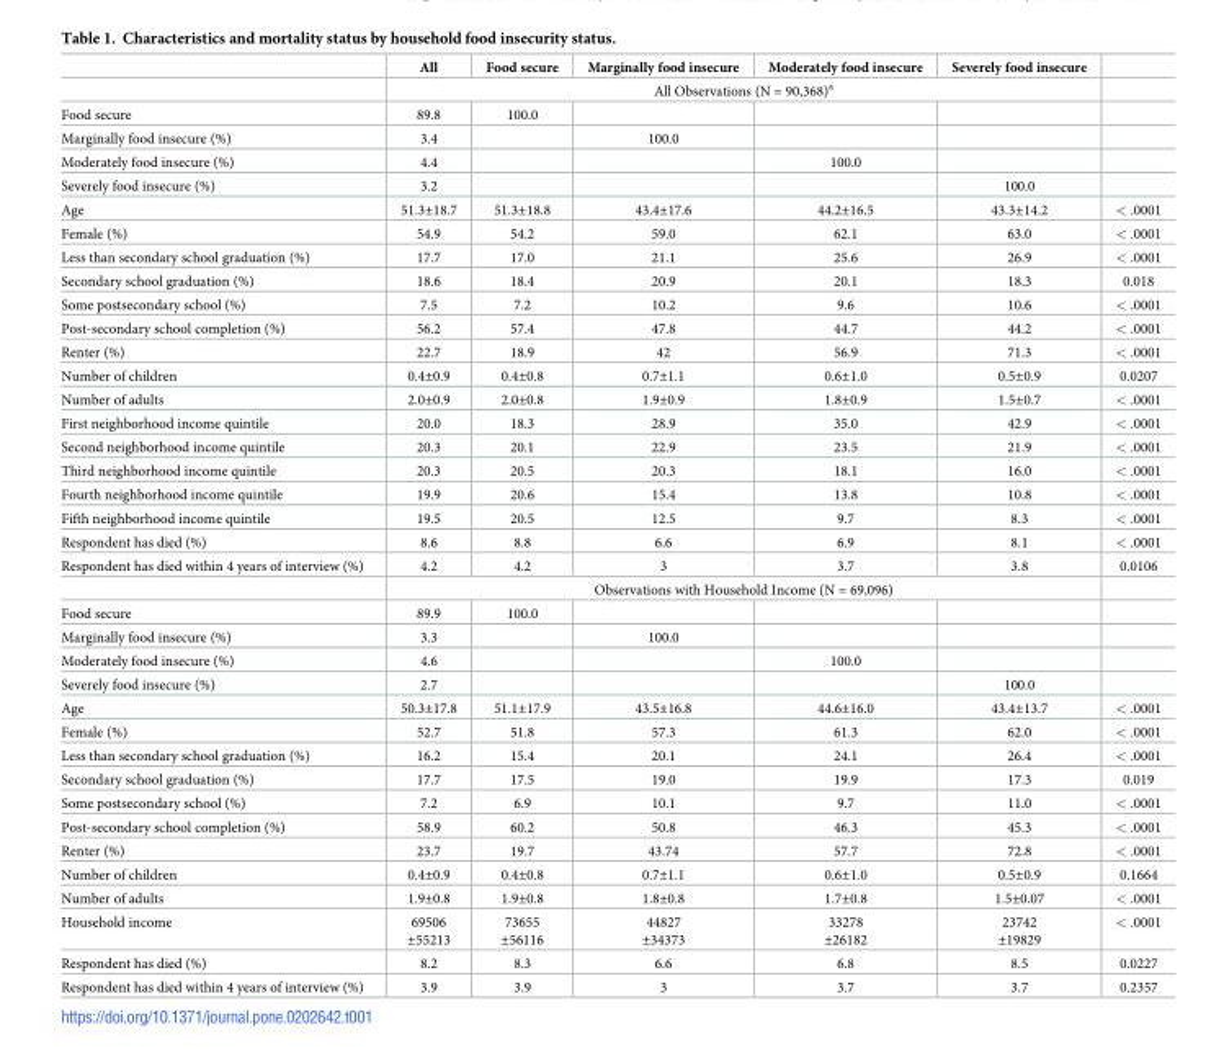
<table><thead><tr><td></td><td>All</td><td>Food secure</td><td>Marginally food insecure</td><td>Moderately food insecure</td><td>Severely food insecure</td><td></td></tr></thead><tbody><tr><td></td><td colspan="5">All Observations (N = 90,368)<sup>a</sup></td><td></td></tr><tr><td>Food secure</td><td>89.8</td><td>100.0</td><td></td><td></td><td></td><td></td></tr><tr><td>Marginally food insecure (%)</td><td>3.4</td><td></td><td>100.0</td><td></td><td></td><td></td></tr><tr><td>Moderately food insecure (%)</td><td>4.4</td><td></td><td></td><td>100.0</td><td></td><td></td></tr><tr><td>Severely food insecure (%)</td><td>3.2</td><td></td><td></td><td></td><td>100.0</td><td></td></tr><tr><td>Age</td><td>51.3±18.7</td><td>51.3±18.8</td><td>43.4±17.6</td><td>44.2±16.5</td><td>43.3±14.2</td><td>&lt; .0001</td></tr><tr><td>Female (%)</td><td>54.9</td><td>54.2</td><td>59.0</td><td>62.1</td><td>63.0</td><td>&lt; .0001</td></tr><tr><td>Less than secondary school graduation (%)</td><td>17.7</td><td>17.0</td><td>21.1</td><td>25.6</td><td>26.9</td><td>&lt; .0001</td></tr><tr><td>Secondary school graduation (%)</td><td>18.6</td><td>18.4</td><td>20.9</td><td>20.1</td><td>18.3</td><td>0.018</td></tr><tr><td>Some postsecondary school (%)</td><td>7.5</td><td>7.2</td><td>10.2</td><td>9.6</td><td>10.6</td><td>&lt; .0001</td></tr><tr><td>Post-secondary school completion (%)</td><td>56.2</td><td>57.4</td><td>47.8</td><td>44.7</td><td>44.2</td><td>&lt; .0001</td></tr><tr><td>Renter (%)</td><td>22.7</td><td>18.9</td><td>42</td><td>56.9</td><td>71.3</td><td>&lt; .0001</td></tr><tr><td>Number of children</td><td>0.4±0.9</td><td>0.4±0.8</td><td>0.7±1.1</td><td>0.6±1.0</td><td>0.5±0.9</td><td>0.0207</td></tr><tr><td>Number of adults</td><td>2.0±0.9</td><td>2.0±0.8</td><td>1.9±0.9</td><td>1.8±0.9</td><td>1.5±0.7</td><td>&lt; .0001</td></tr><tr><td>First neighborhood income quintile</td><td>20.0</td><td>18.3</td><td>28.9</td><td>35.0</td><td>42.9</td><td>&lt; .0001</td></tr><tr><td>Second neighborhood income quintile</td><td>20.3</td><td>20.1</td><td>22.9</td><td>23.5</td><td>21.9</td><td>&lt; .0001</td></tr><tr><td>Third neighborhood income quintile</td><td>20.3</td><td>20.5</td><td>20.3</td><td>18.1</td><td>16.0</td><td>&lt; .0001</td></tr><tr><td>Fourth neighborhood income quintile</td><td>19.9</td><td>20.6</td><td>15.4</td><td>13.8</td><td>10.8</td><td>&lt; .0001</td></tr><tr><td>Fifth neighborhood income quintile</td><td>19.5</td><td>20.5</td><td>12.5</td><td>9.7</td><td>8.3</td><td>&lt; .0001</td></tr><tr><td>Respondent has died (%)</td><td>8.6</td><td>8.8</td><td>6.6</td><td>6.9</td><td>8.1</td><td>&lt; .0001</td></tr><tr><td rowspan="2">Respondent has died within 4 years of interview (%)</td><td>4.2</td><td>4.2</td><td>3</td><td>3.7</td><td>3.8</td><td>0.0106</td></tr><tr><td colspan="5">Observations with Household Income (N = 69,096)</td><td></td></tr><tr><td>Food secure</td><td>89.9</td><td>100.0</td><td></td><td></td><td></td><td></td></tr><tr><td>Marginally food insecure (%)</td><td>3.3</td><td></td><td>100.0</td><td></td><td></td><td></td></tr><tr><td>Moderately food insecure (%)</td><td>4.6</td><td></td><td></td><td>100.0</td><td></td><td></td></tr><tr><td>Severely food insecure (%)</td><td>2.7</td><td></td><td></td><td></td><td>100.0</td><td></td></tr><tr><td>Age</td><td>50.3±17.8</td><td>51.1±17.9</td><td>43.5±16.8</td><td>44.6±16.0</td><td>43.4±13.7</td><td>&lt; .0001</td></tr><tr><td>Female (%)</td><td>52.7</td><td>51.8</td><td>57.3</td><td>61.3</td><td>62.0</td><td>&lt; .0001</td></tr><tr><td>Less than secondary school graduation (%)</td><td>16.2</td><td>15.4</td><td>20.1</td><td>24.1</td><td>26.4</td><td>&lt; .0001</td></tr><tr><td>Secondary school graduation (%)</td><td>17.7</td><td>17.5</td><td>19.0</td><td>19.9</td><td>17.3</td><td>0.019</td></tr><tr><td>Some postsecondary school (%)</td><td>7.2</td><td>6.9</td><td>10.1</td><td>9.7</td><td>11.0</td><td>&lt; .0001</td></tr><tr><td>Post-secondary school completion (%)</td><td>58.9</td><td>60.2</td><td>50.8</td><td>46.3</td><td>45.3</td><td>&lt; .0001</td></tr><tr><td>Renter (%)</td><td>23.7</td><td>19.7</td><td>43.74</td><td>57.7</td><td>72.8</td><td>&lt; .0001</td></tr><tr><td>Number of children</td><td>0.4±0.9</td><td>0.4±0.8</td><td>0.7±1.1</td><td>0.6±1.0</td><td>0.5±0.9</td><td>0.1664</td></tr><tr><td>Number of adults</td><td>1.9±0.8</td><td>1.9±0.8</td><td>1.8±0.8</td><td>1.7±0.8</td><td>1.5±0.07</td><td>&lt; .0001</td></tr><tr><td>Household income</td><td>69506 ±55213</td><td>73655 ±56116</td><td>44827 ±34373</td><td>33278 ±26182</td><td>23742 ±19829</td><td>&lt; .0001</td></tr><tr><td>Respondent has died (%)</td><td>8.2</td><td>8.3</td><td>6.6</td><td>6.8</td><td>8.5</td><td>0.0227</td></tr><tr><td>Respondent has died within 4 years of interview (%)</td><td>3.9</td><td>3.9</td><td>3</td><td>3.7</td><td>3.7</td><td>0.2357</td></tr></tbody></table>